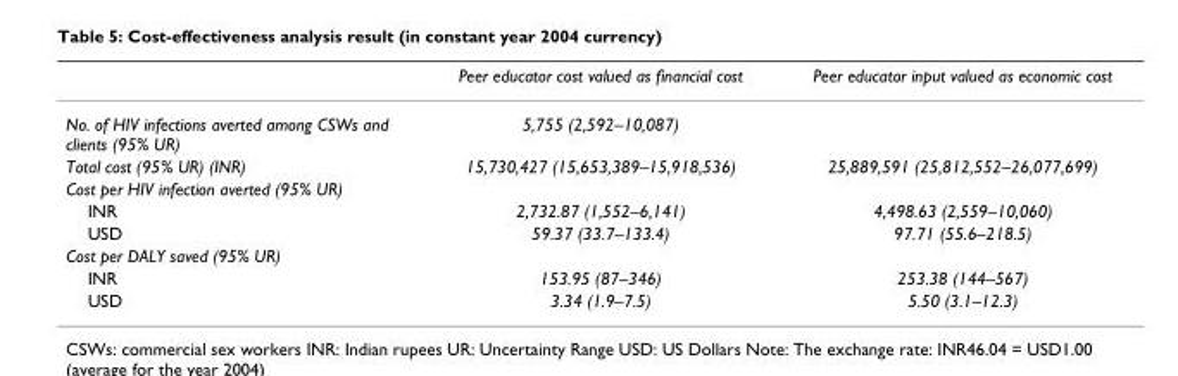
<table><thead><tr><td></td><td>Peer educator cost valued as financial cost</td><td>Peer educator input valued as economic cost</td></tr></thead><tbody><tr><td>No. of HIV infections averted among CSWs and clients (95% UR)</td><td>5,755 (2,592–10,087)</td><td></td></tr><tr><td>Total cost (95% UR) (INR)</td><td>15,730,427 (15,653,389–15,918,536)</td><td>25,889,591 (25,812,552–26,077,699)</td></tr><tr><td colspan="3">Cost per HIV infection averted (95% UR)</td></tr><tr><td>INR</td><td>2,732.87 (1,552–6,141)</td><td>4,498.63 (2,559–10,060)</td></tr><tr><td>USD</td><td>59.37 (33.7–133.4)</td><td>97.71 (55.6–218.5)</td></tr><tr><td colspan="3">Cost per DALY saved (95% UR)</td></tr><tr><td>INR</td><td>153.95 (87–346)</td><td>253.38 (144–567)</td></tr><tr><td>USD</td><td>3.34 (1.9–7.5)</td><td>5.50 (3.1–12.3)</td></tr></tbody></table>